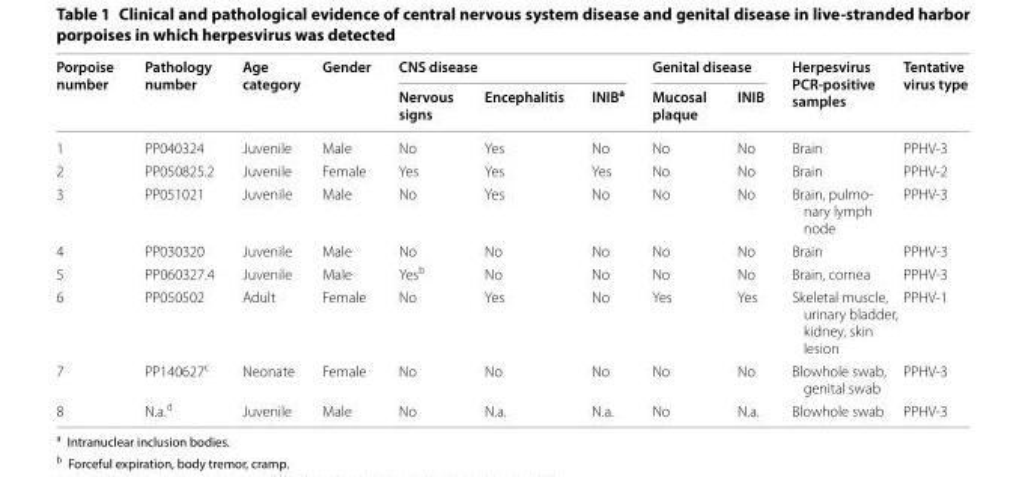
<table><thead><tr><td rowspan="2">Porpoise number</td><td rowspan="2">Pathology number</td><td rowspan="2">Age category</td><td rowspan="2">Gender</td><td colspan="3">CNS disease</td><td colspan="2">Genital disease</td><td rowspan="2">Herpesvirus PCR‑positive samples</td><td rowspan="2">Tentative virus type</td></tr><tr><td>Nervous signs</td><td>Encephalitis</td><td>INIB<sup>a</sup></td><td>Mucosal plaque</td><td>INIB</td></tr></thead><tbody><tr><td>1</td><td>PP040324</td><td>Juvenile</td><td>Male</td><td>No</td><td>Yes</td><td>No</td><td>No</td><td>No</td><td>Brain</td><td>PPHV-3</td></tr><tr><td>2</td><td>PP050825.2</td><td>Juvenile</td><td>Female</td><td>Yes</td><td>Yes</td><td>Yes</td><td>No</td><td>No</td><td>Brain</td><td>PPHV-2</td></tr><tr><td>3</td><td>PP051021</td><td>Juvenile</td><td>Male</td><td>No</td><td>Yes</td><td>No</td><td>No</td><td>No</td><td>Brain, pulmo- nary lymph node</td><td>PPHV-3</td></tr><tr><td>4</td><td>PP030320</td><td>Juvenile</td><td>Male</td><td>No</td><td>No</td><td>No</td><td>No</td><td>No</td><td>Brain</td><td>PPHV-3</td></tr><tr><td>5</td><td>PP060327.4</td><td>Juvenile</td><td>Male</td><td>Yes<sup>b</sup></td><td>No</td><td>No</td><td>No</td><td>No</td><td>Brain, cornea</td><td>PPHV-3</td></tr><tr><td>6</td><td>PP050502</td><td>Adult</td><td>Female</td><td>No</td><td>Yes</td><td>No</td><td>Yes</td><td>Yes</td><td>Skeletal muscle, urinary bladder, kidney, skin lesion</td><td>PPHV-1</td></tr><tr><td>7</td><td>PP140627<sup>c</sup></td><td>Neonate</td><td>Female</td><td>No</td><td>No</td><td>No</td><td>No</td><td>No</td><td>Blowhole swab, genital swab</td><td>PPHV-3</td></tr><tr><td>8</td><td>N.a.<sup>d</sup></td><td>Juvenile</td><td>Male</td><td>No</td><td>N.a.</td><td>N.a.</td><td>No</td><td>N.a.</td><td>Blowhole swab</td><td>PPHV-3</td></tr></tbody></table>